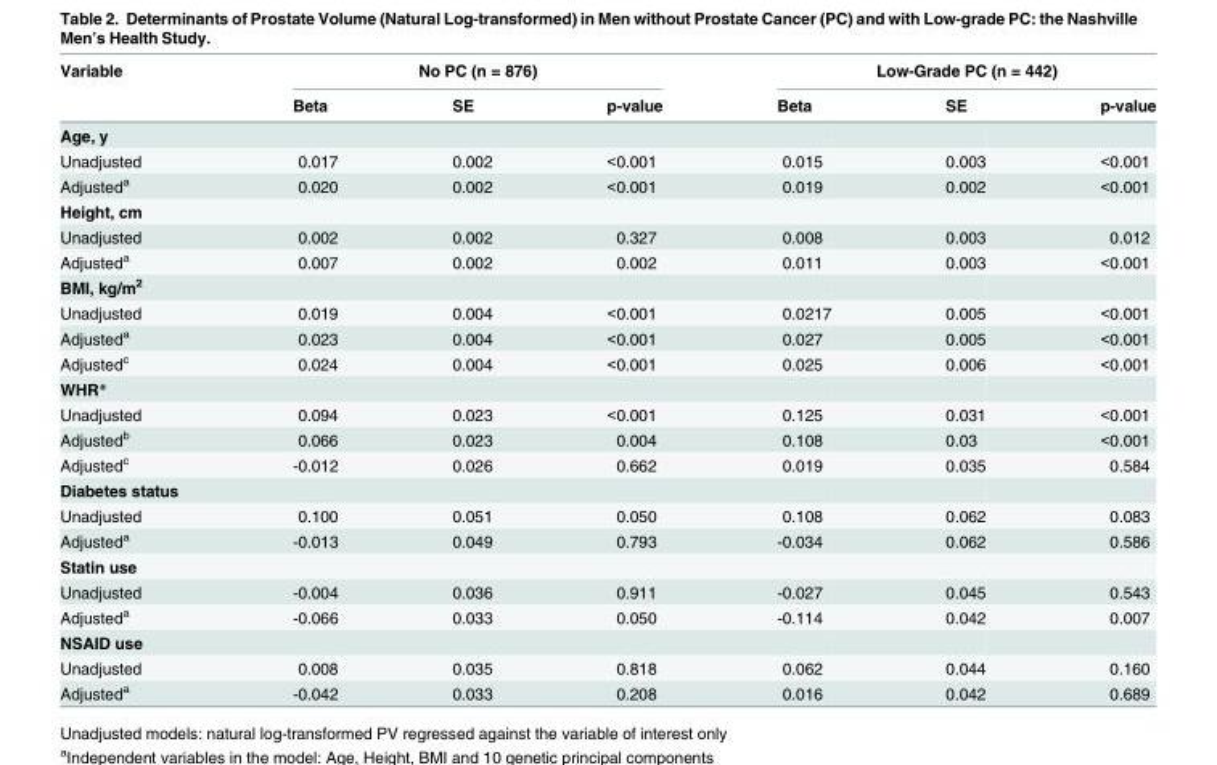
<table><thead><tr><td rowspan="2">Variable</td><td colspan="3">No PC (n = 876)</td><td colspan="3">Low-Grade PC (n = 442)</td></tr><tr><td>Beta</td><td>SE</td><td>p-value</td><td>Beta</td><td>SE</td><td>p-value</td></tr></thead><tbody><tr><td colspan="7">Age, y</td></tr><tr><td>Unadjusted</td><td>0.017</td><td>0.002</td><td>&lt;0.001</td><td>0.015</td><td>0.003</td><td>&lt;0.001</td></tr><tr><td>Adjusted<sup>a</sup></td><td>0.020</td><td>0.002</td><td>&lt;0.001</td><td>0.019</td><td>0.002</td><td>&lt;0.001</td></tr><tr><td colspan="7">Height, cm</td></tr><tr><td>Unadjusted</td><td>0.002</td><td>0.002</td><td>0.327</td><td>0.008</td><td>0.003</td><td>0.012</td></tr><tr><td>Adjusted<sup>a</sup></td><td>0.007</td><td>0.002</td><td>0.002</td><td>0.011</td><td>0.003</td><td>&lt;0.001</td></tr><tr><td colspan="7">BMI, kg/m<sup>2</sup></td></tr><tr><td>Unadjusted</td><td>0.019</td><td>0.004</td><td>&lt;0.001</td><td>0.0217</td><td>0.005</td><td>&lt;0.001</td></tr><tr><td>Adjusted<sup>a</sup></td><td>0.023</td><td>0.004</td><td>&lt;0.001</td><td>0.027</td><td>0.005</td><td>&lt;0.001</td></tr><tr><td>Adjusted<sup>c</sup></td><td>0.024</td><td>0.004</td><td>&lt;0.001</td><td>0.025</td><td>0.006</td><td>&lt;0.001</td></tr><tr><td colspan="7">WHR*</td></tr><tr><td>Unadjusted</td><td>0.094</td><td>0.023</td><td>&lt;0.001</td><td>0.125</td><td>0.031</td><td>&lt;0.001</td></tr><tr><td>Adjusted<sup>b</sup></td><td>0.066</td><td>0.023</td><td>0.004</td><td>0.108</td><td>0.03</td><td>&lt;0.001</td></tr><tr><td>Adjusted<sup>c</sup></td><td>-0.012</td><td>0.026</td><td>0.662</td><td>0.019</td><td>0.035</td><td>0.584</td></tr><tr><td colspan="7">Diabetes status</td></tr><tr><td>Unadjusted</td><td>0.100</td><td>0.051</td><td>0.050</td><td>0.108</td><td>0.062</td><td>0.083</td></tr><tr><td>Adjusted<sup>a</sup></td><td>-0.013</td><td>0.049</td><td>0.793</td><td>-0.034</td><td>0.062</td><td>0.586</td></tr><tr><td colspan="7">Statin use</td></tr><tr><td>Unadjusted</td><td>-0.004</td><td>0.036</td><td>0.911</td><td>-0.027</td><td>0.045</td><td>0.543</td></tr><tr><td>Adjusted<sup>a</sup></td><td>-0.066</td><td>0.033</td><td>0.050</td><td>-0.114</td><td>0.042</td><td>0.007</td></tr><tr><td colspan="7">NSAID use</td></tr><tr><td>Unadjusted</td><td>0.008</td><td>0.035</td><td>0.818</td><td>0.062</td><td>0.044</td><td>0.160</td></tr><tr><td>Adjusted<sup>a</sup></td><td>-0.042</td><td>0.033</td><td>0.208</td><td>0.016</td><td>0.042</td><td>0.689</td></tr></tbody></table>